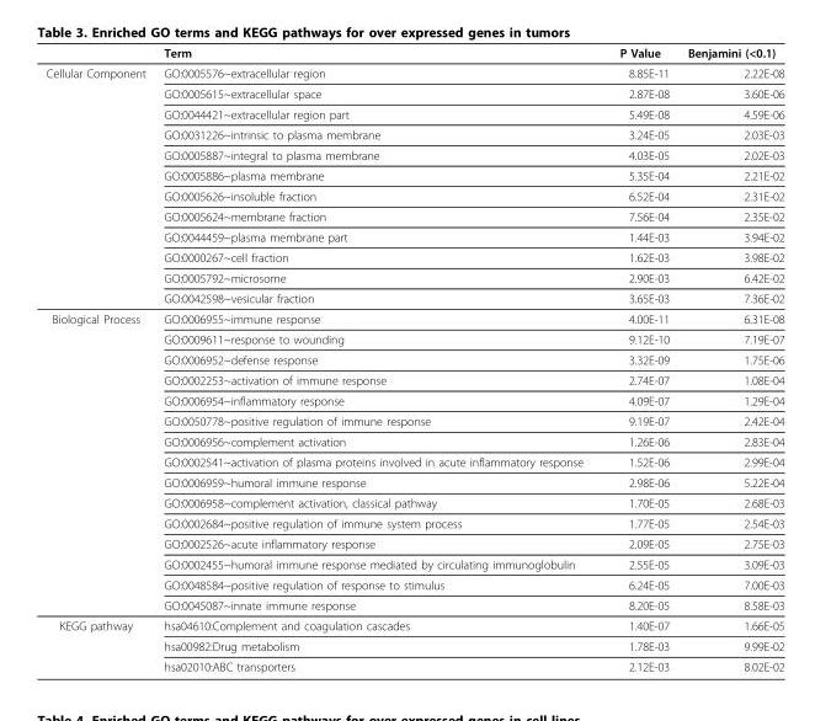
<table><thead><tr><td></td><td>Term</td><td>P Value</td><td>Benjamini (&lt;0.1)</td></tr></thead><tbody><tr><td rowspan="12">Cellular Component</td><td>GO:0005576~extracellular region</td><td>8.85E-11</td><td>2.22E-08</td></tr><tr><td>GO:0005615~extracellular space</td><td>2.87E-08</td><td>3.60E-06</td></tr><tr><td>GO:0044421~extracellular region part</td><td>5.49E-08</td><td>4.59E-06</td></tr><tr><td>GO:0031226~intrinsic to plasma membrane</td><td>3.24E-05</td><td>2.03E-03</td></tr><tr><td>GO:0005887~integral to plasma membrane</td><td>4.03E-05</td><td>2.02E-03</td></tr><tr><td>GO:0005886~plasma membrane</td><td>5.35E-04</td><td>2.21E-02</td></tr><tr><td>GO:0005626~insoluble fraction</td><td>6.52E-04</td><td>2.31E-02</td></tr><tr><td>GO:0005624~membrane fraction</td><td>7.56E-04</td><td>2.35E-02</td></tr><tr><td>GO:0044459~plasma membrane part</td><td>1.44E-03</td><td>3.94E-02</td></tr><tr><td>GO:0000267~cell fraction</td><td>1.62E-03</td><td>3.98E-02</td></tr><tr><td>GO:0005792~microsome</td><td>2.90E-03</td><td>6.42E-02</td></tr><tr><td>GO:0042598~vesicular fraction</td><td>3.65E-03</td><td>7.36E-02</td></tr><tr><td rowspan="15">Biological Process</td><td>GO:0006955~immune response</td><td>4.00E-11</td><td>6.31E-08</td></tr><tr><td>GO:0009611~response to wounding</td><td>9.12E-10</td><td>7.19E-07</td></tr><tr><td>GO:0006952~defense response</td><td>3.32E-09</td><td>1.75E-06</td></tr><tr><td>GO:0002253~activation of immune response</td><td>2.74E-07</td><td>1.08E-04</td></tr><tr><td>GO:0006954~inflammatory response</td><td>4.09E-07</td><td>1.29E-04</td></tr><tr><td>GO:0050778~positive regulation of immune response</td><td>9.19E-07</td><td>2.42E-04</td></tr><tr><td>GO:0006956~complement activation</td><td>1.26E-06</td><td>2.83E-04</td></tr><tr><td>GO:0002541~activation of plasma proteins involved in acute inflammatory response</td><td>1.52E-06</td><td>2.99E-04</td></tr><tr><td>GO:0006959~humoral immune response</td><td>2.98E-06</td><td>5.22E-04</td></tr><tr><td>GO:0006958~complement activation, classical pathway</td><td>1.70E-05</td><td>2.68E-03</td></tr><tr><td>GO:0002684~positive regulation of immune system process</td><td>1.77E-05</td><td>2.54E-03</td></tr><tr><td>GO:0002526~acute inflammatory response</td><td>2.09E-05</td><td>2.75E-03</td></tr><tr><td>GO:0002455~humoral immune response mediated by circulating immunoglobulin</td><td>2.55E-05</td><td>3.09E-03</td></tr><tr><td>GO:0048584~positive regulation of response to stimulus</td><td>6.24E-05</td><td>7.00E-03</td></tr><tr><td>GO:0045087~innate immune response</td><td>8.20E-05</td><td>8.58E-03</td></tr><tr><td rowspan="3">KEGG pathway</td><td>hsa04610:Complement and coagulation cascades</td><td>1.40E-07</td><td>1.66E-05</td></tr><tr><td>hsa00982:Drug metabolism</td><td>1.78E-03</td><td>9.99E-02</td></tr><tr><td>hsa02010:ABC transporters</td><td>2.12E-03</td><td>8.02E-02</td></tr></tbody></table>